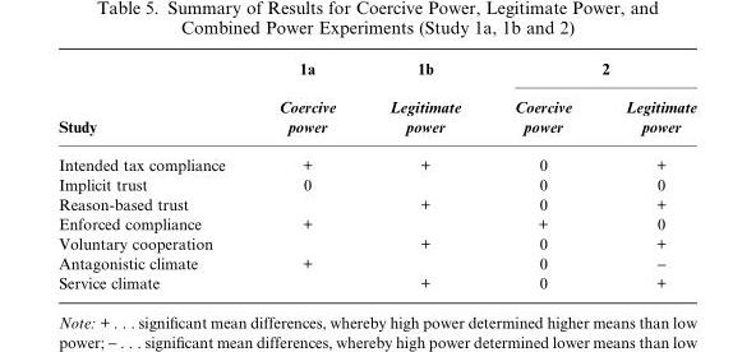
<table><thead><tr><td rowspan="2">Study</td><td rowspan="2">1a Coercive power</td><td rowspan="2">1b Legitimate power</td><td colspan="2">2</td></tr><tr><td>Coercive power</td><td>Legitimate power</td></tr></thead><tbody><tr><td>Intended tax compliance</td><td>+</td><td>+</td><td>0</td><td>+</td></tr><tr><td>Implicit trust</td><td>0</td><td></td><td>0</td><td>0</td></tr><tr><td>Reason-based trust</td><td></td><td>+</td><td>0</td><td>+</td></tr><tr><td>Enforced compliance</td><td>+</td><td></td><td>+</td><td>0</td></tr><tr><td>Voluntary cooperation</td><td></td><td>+</td><td>0</td><td>+</td></tr><tr><td>Antagonistic climate</td><td>+</td><td></td><td>0</td><td>−</td></tr><tr><td>Service climate</td><td></td><td>+</td><td>0</td><td>+</td></tr></tbody></table>